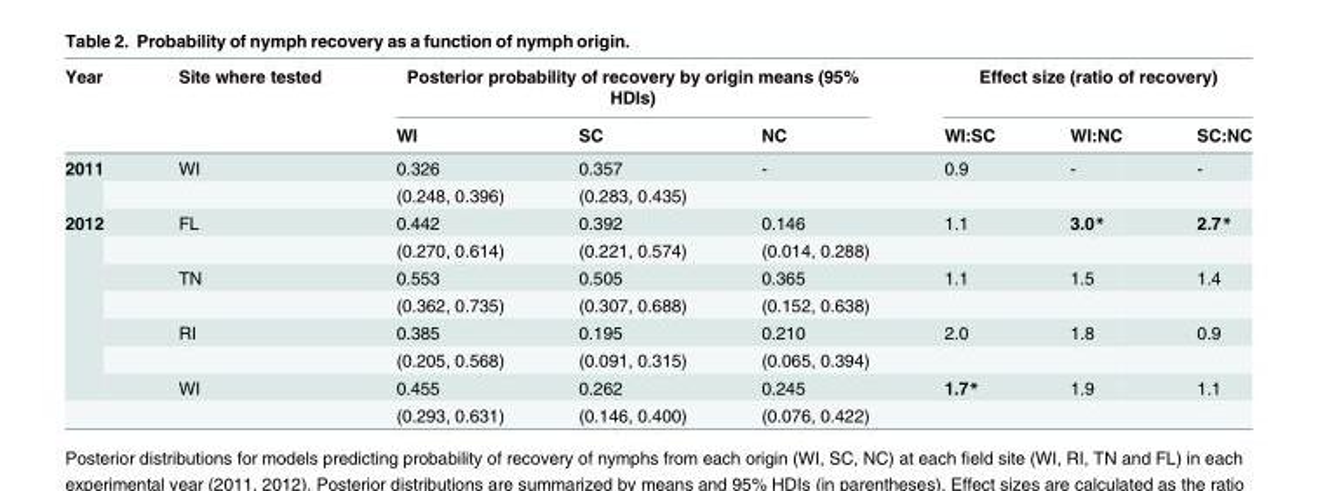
<table><thead><tr><td rowspan="2">Year</td><td rowspan="2">Site where tested</td><td colspan="3">Posterior probability of recovery by origin means (95% HDIs)</td><td colspan="3">Effect size (ratio of recovery)</td></tr><tr><td>WI</td><td>SC</td><td>NC</td><td>WI:SC</td><td>WI:NC</td><td>SC:NC</td></tr></thead><tbody><tr><td rowspan="2">2011</td><td>WI</td><td>0.326</td><td>0.357</td><td>-</td><td>0.9</td><td>-</td><td>-</td></tr><tr><td></td><td>(0.248, 0.396)</td><td>(0.283, 0.435)</td><td></td><td></td><td></td><td></td></tr><tr><td rowspan="8">2012</td><td>FL</td><td>0.442</td><td>0.392</td><td>0.146</td><td>1.1</td><td>3.0*</td><td>2.7*</td></tr><tr><td></td><td>(0.270, 0.614)</td><td>(0.221, 0.574)</td><td>(0.014, 0.288)</td><td></td><td></td><td></td></tr><tr><td>TN</td><td>0.553</td><td>0.505</td><td>0.365</td><td>1.1</td><td>1.5</td><td>1.4</td></tr><tr><td></td><td>(0.362, 0.735)</td><td>(0.307, 0.688)</td><td>(0.152, 0.638)</td><td></td><td></td><td></td></tr><tr><td>RI</td><td>0.385</td><td>0.195</td><td>0.210</td><td>2.0</td><td>1.8</td><td>0.9</td></tr><tr><td></td><td>(0.205, 0.568)</td><td>(0.091, 0.315)</td><td>(0.065, 0.394)</td><td></td><td></td><td></td></tr><tr><td>WI</td><td>0.455</td><td>0.262</td><td>0.245</td><td>1.7*</td><td>1.9</td><td>1.1</td></tr><tr><td></td><td>(0.293, 0.631)</td><td>(0.146, 0.400)</td><td>(0.076, 0.422)</td><td></td><td></td><td></td></tr></tbody></table>